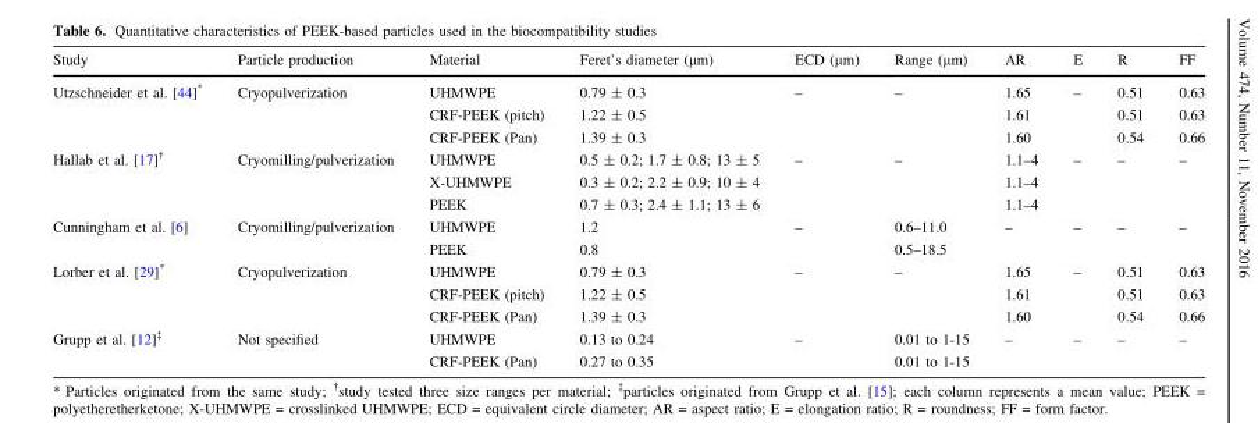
<table><thead><tr><td>Study</td><td>Particle production</td><td>Material</td><td>Feret’s diameter (µm)</td><td>ECD (µm)</td><td>Range (µm)</td><td>AR</td><td>E</td><td>R</td><td>FF</td></tr></thead><tbody><tr><td>Utzschneider et al. [44]*</td><td>Cryopulverization</td><td>UHMWPE CRF-PEEK (pitch) CRF-PEEK (Pan)</td><td>0.79 ± 0.3 1.22 ± 0.5 1.39 ± 0.3</td><td>–</td><td>–</td><td>1.65 1.61 1.60</td><td>–</td><td>0.51 0.51 0.54</td><td>0.63 0.63 0.66</td></tr><tr><td>Hallab et al. [17]<sup>†</sup></td><td>Cryomilling/pulverization</td><td>UHMWPE X-UHMWPE PEEK</td><td>0.5 ± 0.2; 1.7 ± 0.8; 13 ± 5 0.3 ± 0.2; 2.2 ± 0.9; 10 ± 4 0.7 ± 0.3; 2.4 ± 1.1; 13 ± 6</td><td>–</td><td>–</td><td>1.1–4 1.1–4 1.1–4</td><td>–</td><td>–</td><td>–</td></tr><tr><td>Cunningham et al. [6]</td><td>Cryomilling/pulverization</td><td>UHMWPE PEEK</td><td>1.2 0.8</td><td>–</td><td>0.6–11.0 0.5–18.5</td><td>–</td><td>–</td><td>–</td><td>–</td></tr><tr><td>Lorber et al. [29]*</td><td>Cryopulverization</td><td>UHMWPE CRF-PEEK (pitch) CRF-PEEK (Pan)</td><td>0.79 ± 0.3 1.22 ± 0.5 1.39 ± 0.3</td><td>–</td><td>–</td><td>1.65 1.61 1.60</td><td>–</td><td>0.51 0.51 0.54</td><td>0.63 0.63 0.66</td></tr><tr><td>Grupp et al. [12]<sup>‡</sup></td><td>Not specified</td><td>UHMWPE CRF-PEEK (Pan)</td><td>0.13 to 0.24 0.27 to 0.35</td><td>–</td><td>0.01 to 1-15 0.01 to 1-15</td><td>–</td><td>–</td><td>–</td><td>–</td></tr></tbody></table>